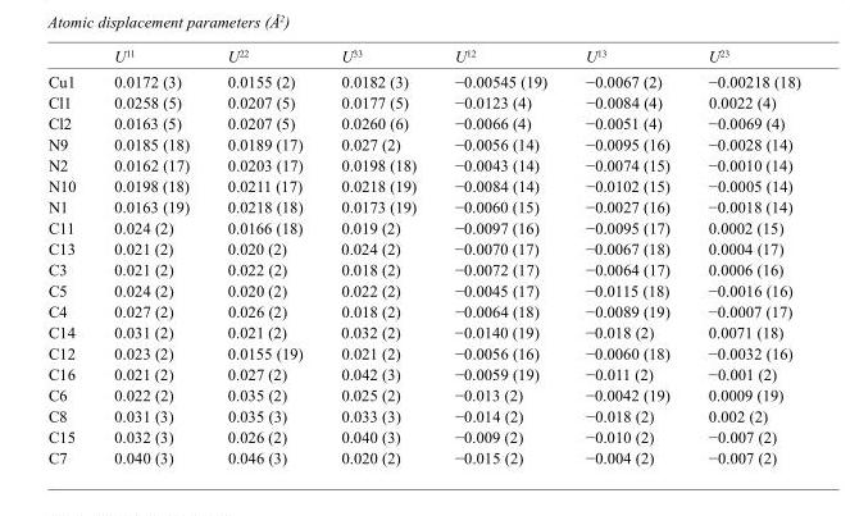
<table><thead><tr><td></td><td>U<sup>11</sup></td><td>U<sup>22</sup></td><td>U<sup>33</sup></td><td>U<sup>12</sup></td><td>U<sup>13</sup></td><td>U<sup>23</sup></td></tr></thead><tbody><tr><td>Cu1</td><td>0.0172 (3)</td><td>0.0155 (2)</td><td>0.0182 (3)</td><td>−0.00545 (19)</td><td>−0.0067 (2)</td><td>−0.00218 (18)</td></tr><tr><td>Cl1</td><td>0.0258 (5)</td><td>0.0207 (5)</td><td>0.0177 (5)</td><td>−0.0123 (4)</td><td>−0.0084 (4)</td><td>0.0022 (4)</td></tr><tr><td>Cl2</td><td>0.0163 (5)</td><td>0.0207 (5)</td><td>0.0260 (6)</td><td>−0.0066 (4)</td><td>−0.0051 (4)</td><td>−0.0069 (4)</td></tr><tr><td>N9</td><td>0.0185 (18)</td><td>0.0189 (17)</td><td>0.027 (2)</td><td>−0.0056 (14)</td><td>−0.0095 (16)</td><td>−0.0028 (14)</td></tr><tr><td>N2</td><td>0.0162 (17)</td><td>0.0203 (17)</td><td>0.0198 (18)</td><td>−0.0043 (14)</td><td>−0.0074 (15)</td><td>−0.0010 (14)</td></tr><tr><td>N10</td><td>0.0198 (18)</td><td>0.0211 (17)</td><td>0.0218 (19)</td><td>−0.0084 (14)</td><td>−0.0102 (15)</td><td>−0.0005 (14)</td></tr><tr><td>N1</td><td>0.0163 (19)</td><td>0.0218 (18)</td><td>0.0173 (19)</td><td>−0.0060 (15)</td><td>−0.0027 (16)</td><td>−0.0018 (14)</td></tr><tr><td>C11</td><td>0.024 (2)</td><td>0.0166 (18)</td><td>0.019 (2)</td><td>−0.0097 (16)</td><td>−0.0095 (17)</td><td>0.0002 (15)</td></tr><tr><td>C13</td><td>0.021 (2)</td><td>0.020 (2)</td><td>0.024 (2)</td><td>−0.0070 (17)</td><td>−0.0067 (18)</td><td>0.0004 (17)</td></tr><tr><td>C3</td><td>0.021 (2)</td><td>0.022 (2)</td><td>0.018 (2)</td><td>−0.0072 (17)</td><td>−0.0064 (17)</td><td>0.0006 (16)</td></tr><tr><td>C5</td><td>0.024 (2)</td><td>0.020 (2)</td><td>0.022 (2)</td><td>−0.0045 (17)</td><td>−0.0115 (18)</td><td>−0.0016 (16)</td></tr><tr><td>C4</td><td>0.027 (2)</td><td>0.026 (2)</td><td>0.018 (2)</td><td>−0.0064 (18)</td><td>−0.0089 (19)</td><td>−0.0007 (17)</td></tr><tr><td>C14</td><td>0.031 (2)</td><td>0.021 (2)</td><td>0.032 (2)</td><td>−0.0140 (19)</td><td>−0.018 (2)</td><td>0.0071 (18)</td></tr><tr><td>C12</td><td>0.023 (2)</td><td>0.0155 (19)</td><td>0.021 (2)</td><td>−0.0056 (16)</td><td>−0.0060 (18)</td><td>−0.0032 (16)</td></tr><tr><td>C16</td><td>0.021 (2)</td><td>0.027 (2)</td><td>0.042 (3)</td><td>−0.0059 (19)</td><td>−0.011 (2)</td><td>−0.001 (2)</td></tr><tr><td>C6</td><td>0.022 (2)</td><td>0.035 (2)</td><td>0.025 (2)</td><td>−0.013 (2)</td><td>−0.0042 (19)</td><td>0.0009 (19)</td></tr><tr><td>C8</td><td>0.031 (3)</td><td>0.035 (3)</td><td>0.033 (3)</td><td>−0.014 (2)</td><td>−0.018 (2)</td><td>0.002 (2)</td></tr><tr><td>C15</td><td>0.032 (3)</td><td>0.026 (2)</td><td>0.040 (3)</td><td>−0.009 (2)</td><td>−0.010 (2)</td><td>−0.007 (2)</td></tr><tr><td>C7</td><td>0.040 (3)</td><td>0.046 (3)</td><td>0.020 (2)</td><td>−0.015 (2)</td><td>−0.004 (2)</td><td>−0.007 (2)</td></tr></tbody></table>